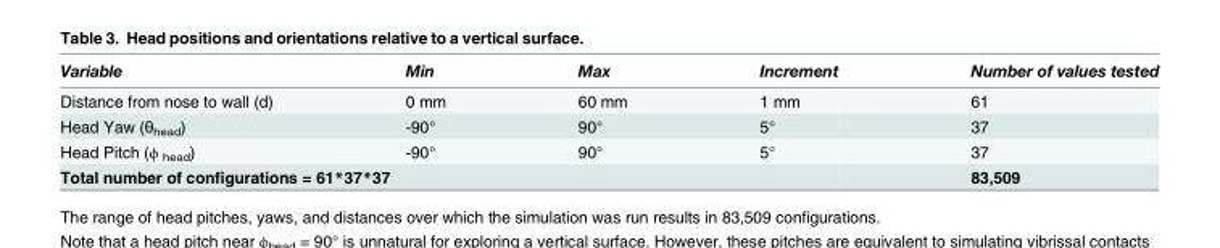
<table><thead><tr><td>Variable</td><td>Min</td><td>Max</td><td>Increment</td><td>Number of values tested</td></tr></thead><tbody><tr><td>Distance from nose to wall (d)</td><td>0 mm</td><td>60 mm</td><td>1 mm</td><td>61</td></tr><tr><td>Head Yaw (θ<sub>head</sub>)</td><td>-90°</td><td>90°</td><td>5°</td><td>37</td></tr><tr><td>Head Pitch (ϕ <sub>head</sub>)</td><td>-90°</td><td>90°</td><td>5°</td><td>37</td></tr><tr><td colspan="4">Total number of configurations = 61*37*37</td><td>83,509</td></tr></tbody></table>